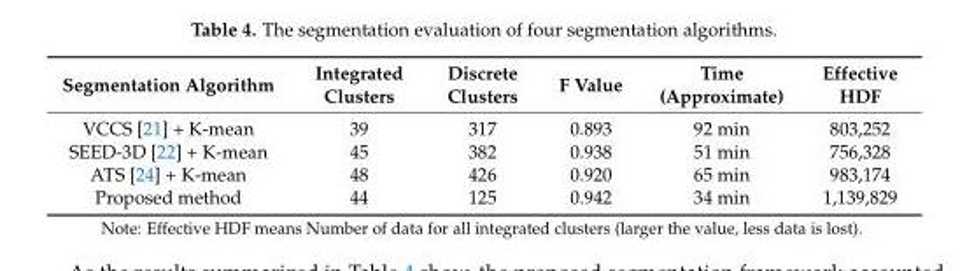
<table><thead><tr><td>Segmentation Algorithm</td><td>Integrated Clusters</td><td>Discrete Clusters</td><td>F Value</td><td>Time (Approximate)</td><td>Effective HDF</td></tr></thead><tbody><tr><td>VCCS [21] + K-mean</td><td>39</td><td>317</td><td>0.893</td><td>92 min</td><td>803,252</td></tr><tr><td>SEED-3D [22] + K-mean</td><td>45</td><td>382</td><td>0.938</td><td>51 min</td><td>756,328</td></tr><tr><td>ATS [24] + K-mean</td><td>48</td><td>426</td><td>0.920</td><td>65 min</td><td>983,174</td></tr><tr><td>Proposed method</td><td>44</td><td>125</td><td>0.942</td><td>34 min</td><td>1,139,829</td></tr></tbody></table>